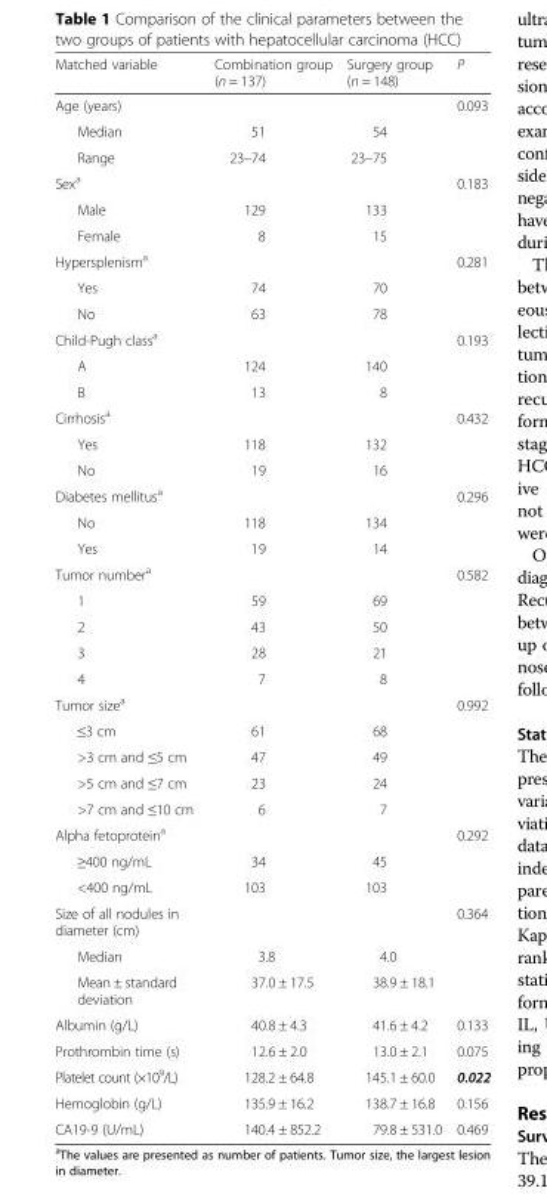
<table><thead><tr><td>Matched variable</td><td>Combination group (n = 137)</td><td>Surgery group (n = 148)</td><td>P</td></tr></thead><tbody><tr><td>Age (years)</td><td></td><td></td><td>0.093</td></tr><tr><td>Median</td><td>51</td><td>54</td><td></td></tr><tr><td>Range</td><td>23–74</td><td>23–75</td><td></td></tr><tr><td>Sex<sup>a</sup></td><td></td><td></td><td>0.183</td></tr><tr><td>Male</td><td>129</td><td>133</td><td></td></tr><tr><td>Female</td><td>8</td><td>15</td><td></td></tr><tr><td>Hypersplenism<sup>a</sup></td><td></td><td></td><td>0.281</td></tr><tr><td>Yes</td><td>74</td><td>70</td><td></td></tr><tr><td>No</td><td>63</td><td>78</td><td></td></tr><tr><td>Child-Pugh class<sup>a</sup></td><td></td><td></td><td>0.193</td></tr><tr><td>A</td><td>124</td><td>140</td><td></td></tr><tr><td>B</td><td>13</td><td>8</td><td></td></tr><tr><td>Cirrhosis<sup>a</sup></td><td></td><td></td><td>0.432</td></tr><tr><td>Yes</td><td>118</td><td>132</td><td></td></tr><tr><td>No</td><td>19</td><td>16</td><td></td></tr><tr><td>Diabetes mellitus<sup>a</sup></td><td></td><td></td><td>0.296</td></tr><tr><td>No</td><td>118</td><td>134</td><td></td></tr><tr><td>Yes</td><td>19</td><td>14</td><td></td></tr><tr><td>Tumor number<sup>a</sup></td><td></td><td></td><td>0.582</td></tr><tr><td>1</td><td>59</td><td>69</td><td></td></tr><tr><td>2</td><td>43</td><td>50</td><td></td></tr><tr><td>3</td><td>28</td><td>21</td><td></td></tr><tr><td>4</td><td>7</td><td>8</td><td></td></tr><tr><td>Tumor size<sup>a</sup></td><td></td><td></td><td>0.992</td></tr><tr><td>≤3 cm</td><td>61</td><td>68</td><td></td></tr><tr><td>&gt;3 cm and ≤5 cm</td><td>47</td><td>49</td><td></td></tr><tr><td>&gt;5 cm and ≤7 cm</td><td>23</td><td>24</td><td></td></tr><tr><td>&gt;7 cm and ≤10 cm</td><td>6</td><td>7</td><td></td></tr><tr><td>Alpha fetoprotein<sup>a</sup></td><td></td><td></td><td>0.292</td></tr><tr><td>≥400 ng/mL</td><td>34</td><td>45</td><td></td></tr><tr><td>&lt;400 ng/mL</td><td>103</td><td>103</td><td></td></tr><tr><td>Size of all nodules in diameter (cm)</td><td></td><td></td><td>0.364</td></tr><tr><td>Median</td><td>3.8</td><td>4.0</td><td></td></tr><tr><td>Mean ± standard deviation</td><td>37.0 ± 17.5</td><td>38.9 ± 18.1</td><td></td></tr><tr><td>Albumin (g/L)</td><td>40.8 ± 4.3</td><td>41.6 ± 4.2</td><td>0.133</td></tr><tr><td>Prothrombin time (s)</td><td>12.6 ± 2.0</td><td>13.0 ± 2.1</td><td>0.075</td></tr><tr><td>Platelet count (×10<sup>9</sup>/L)</td><td>128.2 ± 64.8</td><td>145.1 ± 60.0</td><td>0.022</td></tr><tr><td>Hemoglobin (g/L)</td><td>135.9 ± 16.2</td><td>138.7 ± 16.8</td><td>0.156</td></tr><tr><td>CA19-9 (U/mL)</td><td>140.4 ± 852.2</td><td>79.8 ± 531.0</td><td>0.469</td></tr></tbody></table>